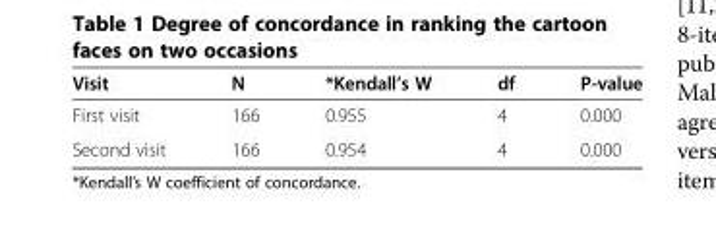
<table><thead><tr><td>Visit</td><td>N</td><td>*Kendall’s W</td><td>df</td><td>P-value</td></tr></thead><tbody><tr><td>First visit</td><td>166</td><td>0.955</td><td>4</td><td>0.000</td></tr><tr><td>Second visit</td><td>166</td><td>0.954</td><td>4</td><td>0.000</td></tr></tbody></table>